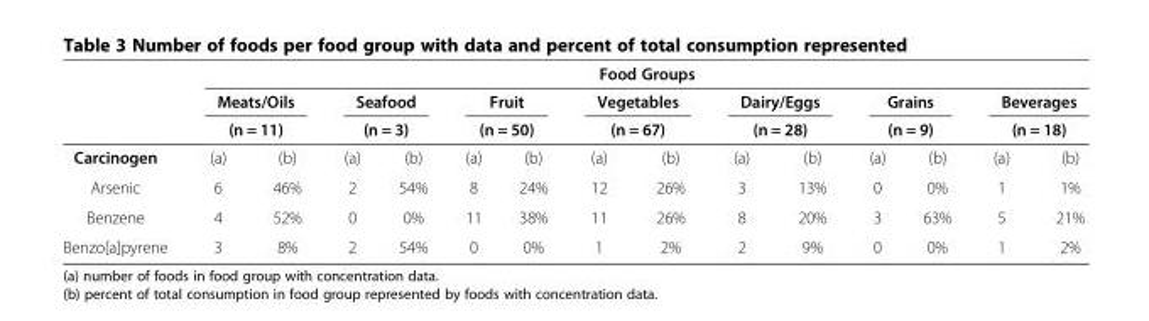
<table><thead><tr><td rowspan="4">Carcinogen</td><td colspan="14">Food Groups</td></tr><tr><td rowspan="2" colspan="2">Meats/Oils (n = 11)</td><td rowspan="2" colspan="2">Seafood (n = 3)</td><td rowspan="2" colspan="2">Fruit (n = 50)</td><td rowspan="2" colspan="2">Vegetables (n = 67)</td><td rowspan="2" colspan="2">Dairy/Eggs (n = 28)</td><td rowspan="2" colspan="2">Grains (n = 9)</td><td rowspan="2" colspan="2">Beverages (n = 18)</td></tr><tr></tr><tr><td>(a)</td><td>(b)</td><td>(a)</td><td>(b)</td><td>(a)</td><td>(b)</td><td>(a)</td><td>(b)</td><td>(a)</td><td>(b)</td><td>(a)</td><td>(b)</td><td>(a)</td><td>(b)</td></tr></thead><tbody><tr><td>Arsenic</td><td>6</td><td>46%</td><td>2</td><td>54%</td><td>8</td><td>24%</td><td>12</td><td>26%</td><td>3</td><td>13%</td><td>0</td><td>0%</td><td>1</td><td>1%</td></tr><tr><td>Benzene</td><td>4</td><td>52%</td><td>0</td><td>0%</td><td>11</td><td>38%</td><td>11</td><td>26%</td><td>8</td><td>20%</td><td>3</td><td>63%</td><td>5</td><td>21%</td></tr><tr><td>Benzo[a]pyrene</td><td>3</td><td>8%</td><td>2</td><td>54%</td><td>0</td><td>0%</td><td>1</td><td>2%</td><td>2</td><td>9%</td><td>0</td><td>0%</td><td>1</td><td>2%</td></tr></tbody></table>